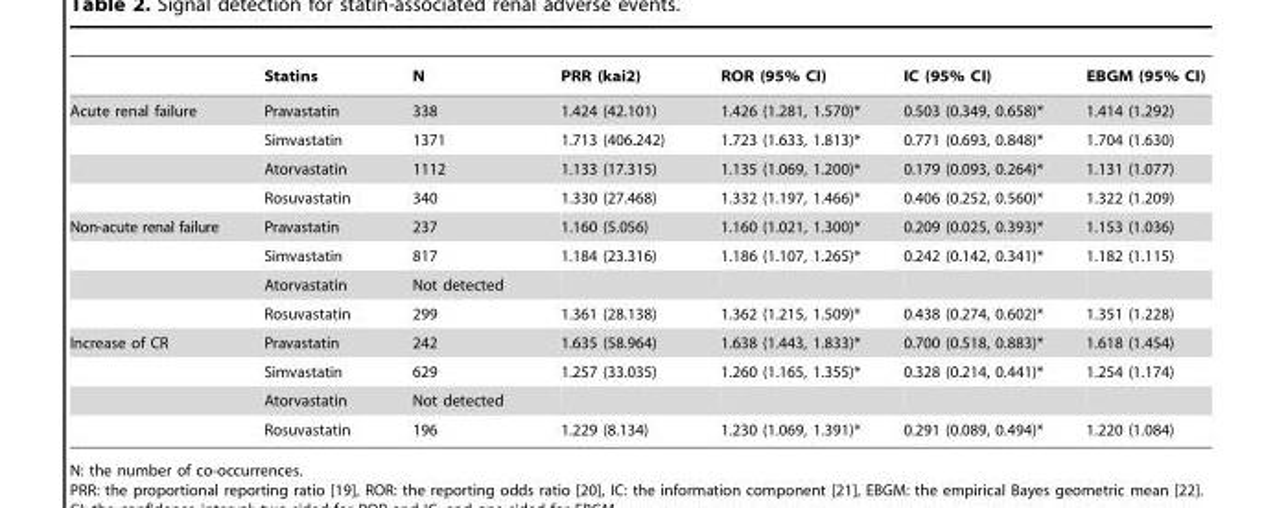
<table><thead><tr><td></td><td>Statins</td><td>N</td><td>PRR (kai2)</td><td>ROR (95% CI)</td><td>IC (95% CI)</td><td>EBGM (95% CI)</td></tr></thead><tbody><tr><td rowspan="4">Acute renal failure</td><td>Pravastatin</td><td>338</td><td>1.424 (42.101)</td><td>1.426 (1.281, 1.570)*</td><td>0.503 (0.349, 0.658)*</td><td>1.414 (1.292)</td></tr><tr><td>Simvastatin</td><td>1371</td><td>1.713 (406.242)</td><td>1.723 (1.633, 1.813)*</td><td>0.771 (0.693, 0.848)*</td><td>1.704 (1.630)</td></tr><tr><td>Atorvastatin</td><td>1112</td><td>1.133 (17.315)</td><td>1.135 (1.069, 1.200)*</td><td>0.179 (0.093, 0.264)*</td><td>1.131 (1.077)</td></tr><tr><td>Rosuvastatin</td><td>340</td><td>1.330 (27.468)</td><td>1.332 (1.197, 1.466)*</td><td>0.406 (0.252, 0.560)*</td><td>1.322 (1.209)</td></tr><tr><td rowspan="4">Non-acute renal failure</td><td>Pravastatin</td><td>237</td><td>1.160 (5.056)</td><td>1.160 (1.021, 1.300)*</td><td>0.209 (0.025, 0.393)*</td><td>1.153 (1.036)</td></tr><tr><td>Simvastatin</td><td>817</td><td>1.184 (23.316)</td><td>1.186 (1.107, 1.265)*</td><td>0.242 (0.142, 0.341)*</td><td>1.182 (1.115)</td></tr><tr><td>Atorvastatin</td><td>Not detected</td><td></td><td></td><td></td><td></td></tr><tr><td>Rosuvastatin</td><td>299</td><td>1.361 (28.138)</td><td>1.362 (1.215, 1.509)*</td><td>0.438 (0.274, 0.602)*</td><td>1.351 (1.228)</td></tr><tr><td rowspan="4">Increase of CR</td><td>Pravastatin</td><td>242</td><td>1.635 (58.964)</td><td>1.638 (1.443, 1.833)*</td><td>0.700 (0.518, 0.883)*</td><td>1.618 (1.454)</td></tr><tr><td>Simvastatin</td><td>629</td><td>1.257 (33.035)</td><td>1.260 (1.165, 1.355)*</td><td>0.328 (0.214, 0.441)*</td><td>1.254 (1.174)</td></tr><tr><td>Atorvastatin</td><td>Not detected</td><td></td><td></td><td></td><td></td></tr><tr><td>Rosuvastatin</td><td>196</td><td>1.229 (8.134)</td><td>1.230 (1.069, 1.391)*</td><td>0.291 (0.089, 0.494)*</td><td>1.220 (1.084)</td></tr></tbody></table>